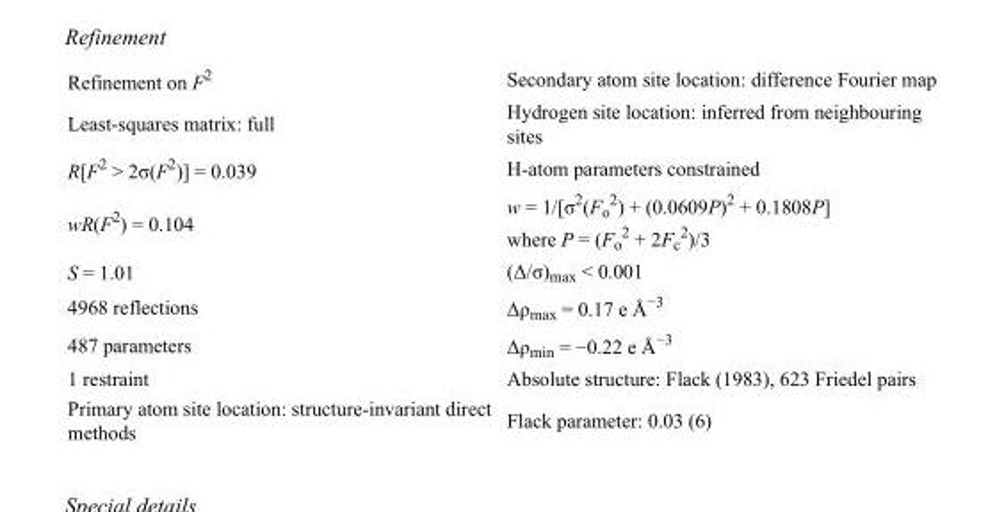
<table><tbody><tr><td>Refinement on F<sup>2</sup></td><td>Secondary atom site location: difference Fourier map</td></tr><tr><td>Least-squares matrix: full</td><td>Hydrogen site location: inferred from neighbouring sites</td></tr><tr><td>R[F<sup>2</sup> &gt; 2σ(F<sup>2</sup>)] = 0.039</td><td>H-atom parameters constrained</td></tr><tr><td>wR(F<sup>2</sup>) = 0.104</td><td>w = 1/[σ<sup>2</sup>(F<sub>o</sub> <sup>2</sup>) + (0.0609P)<sup>2</sup> + 0.1808P] where P = (F<sub>o</sub> <sup>2</sup> + 2F<sub>c</sub> <sup>2</sup>)/3</td></tr><tr><td>S = 1.01</td><td>(Δ/σ)<sub>max</sub> &lt; 0.001</td></tr><tr><td>4968 reflections</td><td>Δρ<sub>max</sub> = 0.17 e Å<sup>−3</sup></td></tr><tr><td>487 parameters</td><td>Δρ<sub>min</sub> = −0.22 e Å<sup>−3</sup></td></tr><tr><td>1 restraint</td><td>Absolute structure: Flack (1983), 623 Friedel pairs</td></tr><tr><td>Primary atom site location: structure-invariant direct methods</td><td>Flack parameter: 0.03 (6)</td></tr></tbody></table>